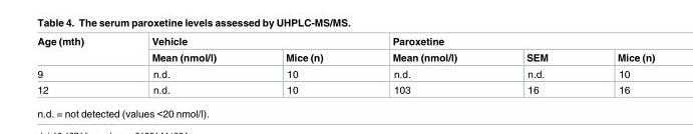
<table><thead><tr><td rowspan="2">Age (mth)</td><td colspan="2">Vehicle</td><td colspan="3">Paroxetine</td></tr><tr><td>Mean (nmol/l)</td><td>Mice (n)</td><td>Mean (nmol/l)</td><td>SEM</td><td>Mice (n)</td></tr></thead><tbody><tr><td>9</td><td>n.d.</td><td>10</td><td>n.d.</td><td>n.d.</td><td>10</td></tr><tr><td>12</td><td>n.d.</td><td>10</td><td>103</td><td>16</td><td>16</td></tr></tbody></table>